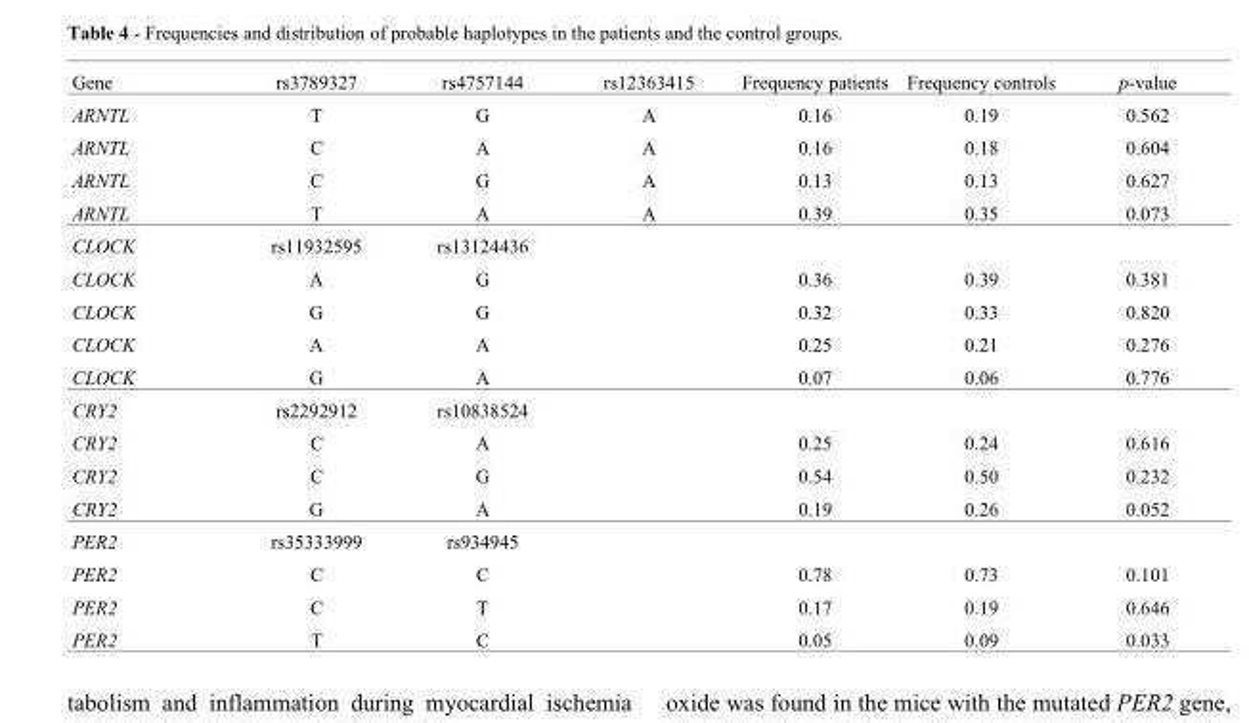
<table><thead><tr><td>Gene</td><td>rs3789327</td><td>rs4757144</td><td>rs12363415</td><td>Frequency patients</td><td>Frequency controls</td><td>p-value</td></tr></thead><tbody><tr><td>ARNTL</td><td>T</td><td>G</td><td>A</td><td>0.16</td><td>0.19</td><td>0.562</td></tr><tr><td>ARNTL</td><td>C</td><td>A</td><td>A</td><td>0.16</td><td>0.18</td><td>0.604</td></tr><tr><td>ARNTL</td><td>C</td><td>G</td><td>A</td><td>0.13</td><td>0.13</td><td>0.627</td></tr><tr><td>ARNTL</td><td>T</td><td>A</td><td>A</td><td>0.39</td><td>0.35</td><td>0.073</td></tr><tr><td>CLOCK</td><td>rs11932595</td><td>rs13124436</td><td></td><td></td><td></td><td></td></tr><tr><td>CLOCK</td><td>A</td><td>G</td><td></td><td>0.36</td><td>0.39</td><td>0.381</td></tr><tr><td>CLOCK</td><td>G</td><td>G</td><td></td><td>0.32</td><td>0.33</td><td>0.820</td></tr><tr><td>CLOCK</td><td>A</td><td>A</td><td></td><td>0.25</td><td>0.21</td><td>0.276</td></tr><tr><td>CLOCK</td><td>G</td><td>A</td><td></td><td>0.07</td><td>0.06</td><td>0.776</td></tr><tr><td>CRY2</td><td>rs2292912</td><td>rs10838524</td><td></td><td></td><td></td><td></td></tr><tr><td>CRY2</td><td>C</td><td>A</td><td></td><td>0.25</td><td>0.24</td><td>0.616</td></tr><tr><td>CRY2</td><td>C</td><td>G</td><td></td><td>0.54</td><td>0.50</td><td>0.232</td></tr><tr><td>CRY2</td><td>G</td><td>A</td><td></td><td>0.19</td><td>0.26</td><td>0.052</td></tr><tr><td>PER2</td><td>rs35333999</td><td>rs934945</td><td></td><td></td><td></td><td></td></tr><tr><td>PER2</td><td>C</td><td>C</td><td></td><td>0.78</td><td>0.73</td><td>0.101</td></tr><tr><td>PER2</td><td>C</td><td>T</td><td></td><td>0.17</td><td>0.19</td><td>0.646</td></tr><tr><td>PER2</td><td>T</td><td>C</td><td></td><td>0.05</td><td>0.09</td><td>0.033</td></tr></tbody></table>